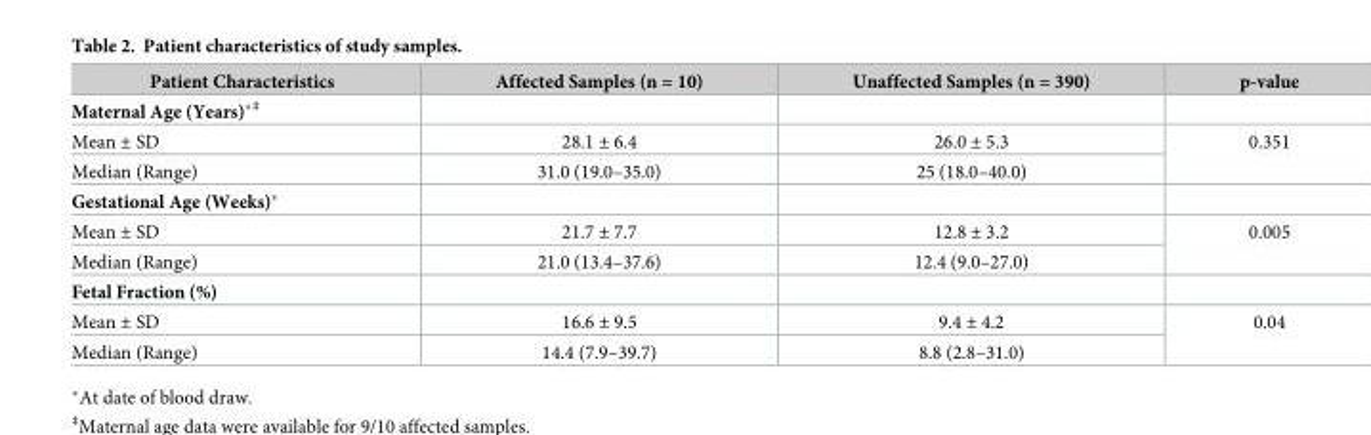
<table><thead><tr><td>Patient Characteristics</td><td>Affected Samples (n = 10)</td><td>Unaffected Samples (n = 390)</td><td>p-value</td></tr></thead><tbody><tr><td colspan="4">Maternal Age (Years)*<sup>‡</sup></td></tr><tr><td>Mean ± SD</td><td>28.1 ± 6.4</td><td>26.0 ± 5.3</td><td rowspan="2">0.351</td></tr><tr><td>Median (Range)</td><td>31.0 (19.0–35.0)</td><td>25 (18.0–40.0)</td></tr><tr><td colspan="4">Gestational Age (Weeks)*</td></tr><tr><td>Mean ± SD</td><td>21.7 ± 7.7</td><td>12.8 ± 3.2</td><td rowspan="2">0.005</td></tr><tr><td>Median (Range)</td><td>21.0 (13.4–37.6)</td><td>12.4 (9.0–27.0)</td></tr><tr><td colspan="4">Fetal Fraction (%)</td></tr><tr><td>Mean ± SD</td><td>16.6 ± 9.5</td><td>9.4 ± 4.2</td><td rowspan="2">0.04</td></tr><tr><td>Median (Range)</td><td>14.4 (7.9–39.7)</td><td>8.8 (2.8–31.0)</td></tr></tbody></table>